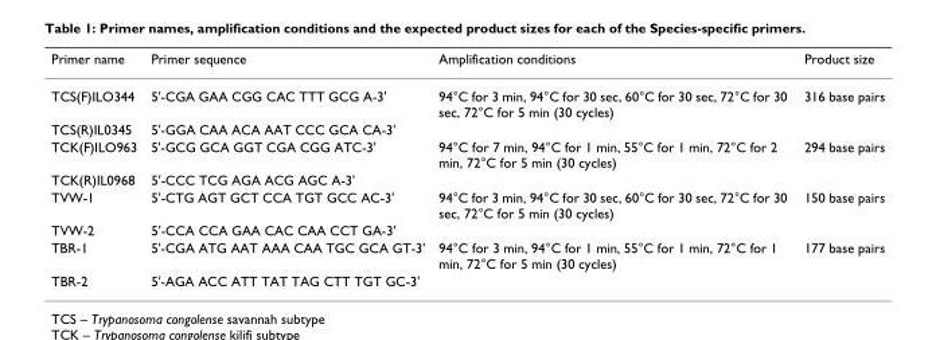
<table><thead><tr><td>Primer name</td><td>Primer sequence</td><td>Amplification conditions</td><td>Product size</td></tr></thead><tbody><tr><td>TCS(F)ILO344</td><td>5&#x27;-CGA GAA CGG CAC TTT GCG A-3&#x27;</td><td>94°C for 3 min, 94°C for 30 sec, 60°C for 30 sec, 72°C for 30 sec, 72°C for 5 min (30 cycles)</td><td>316 base pairs</td></tr><tr><td>TCS(R)IL0345</td><td>5&#x27;-GGA CAA ACA AAT CCC GCA CA-3&#x27;</td><td></td><td></td></tr><tr><td>TCK(F)ILO963</td><td>5&#x27;-GCG GCA GGT CGA CGG ATC-3&#x27;</td><td>94°C for 7 min, 94°C for 1 min, 55°C for 1 min, 72°C for 2 min, 72°C for 5 min (30 cycles)</td><td>294 base pairs</td></tr><tr><td>TCK(R)IL0968</td><td>5&#x27;-CCC TCG AGA ACG AGC A-3&#x27;</td><td></td><td></td></tr><tr><td>TVW-1</td><td>5&#x27;-CTG AGT GCT CCA TGT GCC AC-3&#x27;</td><td>94°C for 3 min, 94°C for 30 sec, 60°C for 30 sec, 72°C for 30 sec, 72°C for 5 min (30 cycles)</td><td>150 base pairs</td></tr><tr><td>TVW-2</td><td>5&#x27;-CCA CCA GAA CAC CAA CCT GA-3&#x27;</td><td></td><td></td></tr><tr><td>TBR-1</td><td>5&#x27;-CGA ATG AAT AAA CAA TGC GCA GT-3&#x27;</td><td>94°C for 3 min, 94°C for 1 min, 55°C for 1 min, 72°C for 1 min, 72°C for 5 min (30 cycles)</td><td>177 base pairs</td></tr><tr><td>TBR-2</td><td>5&#x27;-AGA ACC ATT TAT TAG CTT TGT GC-3&#x27;</td><td></td><td></td></tr></tbody></table>